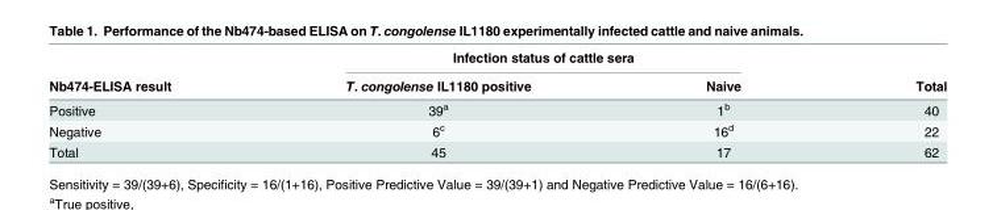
<table><thead><tr><td rowspan="2">Nb474-ELISA result</td><td colspan="2">Infection status of cattle sera</td><td rowspan="2">Total</td></tr><tr><td>T. congolense IL1180 positive</td><td>Naive</td></tr></thead><tbody><tr><td>Positive</td><td>39<sup>a</sup></td><td>1<sup>b</sup></td><td>40</td></tr><tr><td>Negative</td><td>6<sup>c</sup></td><td>16<sup>d</sup></td><td>22</td></tr><tr><td>Total</td><td>45</td><td>17</td><td>62</td></tr></tbody></table>